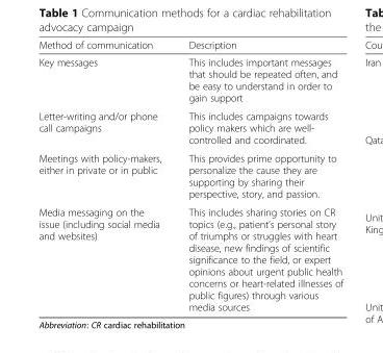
<table><thead><tr><td>Method of communication</td><td>Description</td></tr></thead><tbody><tr><td>Key messages</td><td>This includes important messages that should be repeated often, and be easy to understand in order to gain support</td></tr><tr><td>Letter-writing and/or phone call campaigns</td><td>This includes campaigns towards policy makers which are well- controlled and coordinated.</td></tr><tr><td>Meetings with policy-makers, either in private or in public</td><td>This provides prime opportunity to personalize the cause they are supporting by sharing their perspective, story, and passion.</td></tr><tr><td>Media messaging on the issue (including social media and websites)</td><td>This includes sharing stories on CR topics (e.g., patient’s personal story of triumphs or struggles with heart disease, new findings of scientific significance to the field, or expert opinions about urgent public health concerns or heart-related illnesses of public figures) through various media sources</td></tr></tbody></table>